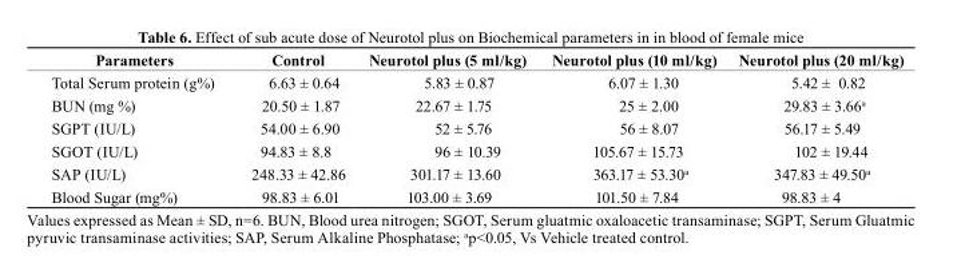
<table><thead><tr><td>Parameters</td><td>control</td><td>Neurotol plus (5 ml/kg)</td><td>Neurotol plus (10 ml/kg)</td><td>Neurotol plus (20 ml/kg)</td></tr></thead><tbody><tr><td>Total Serum protein (g%)</td><td>6.63 ± 0.64</td><td>5.83 ± 0.87</td><td>6.07 ± 1.30</td><td>5.42 ± 0.82</td></tr><tr><td>BUN (mg %)</td><td>20.50 ± 1.87</td><td>22.67 ± 1.75</td><td>25 ± 2.00</td><td>29.83 ± 3.66<sup>a</sup></td></tr><tr><td>SGPT (IU/L)</td><td>54.00 ± 6.90</td><td>52 ± 5.76</td><td>56 ± 8.07</td><td>56.17 ± 5.49</td></tr><tr><td>SGOT (IU/L)</td><td>94.83 ± 8.8</td><td>96 ± 10.39</td><td>105.67 ± 15.73</td><td>102 ± 19.44</td></tr><tr><td>SAP (IU/L)</td><td>248.33 ± 42.86</td><td>301.17 ± 13.60</td><td>363.17 ± 53.30<sup>a</sup></td><td>347.83 ± 49.50<sup>a</sup></td></tr><tr><td>Blood Sugar (mg%)</td><td>98.83 ± 6.01</td><td>103.00 ± 3.69</td><td>101.50 ± 7.84</td><td>98.83 ± 4</td></tr></tbody></table>